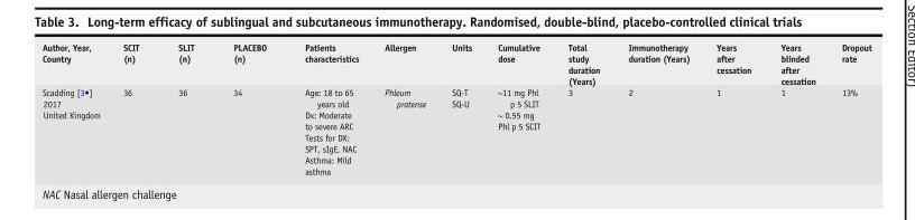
<table><thead><tr><td>Author, Year, Country</td><td>SCIT (n)</td><td>SLIT (n)</td><td>PLACEBO (n)</td><td>Patients characteristics</td><td>Allergen</td><td>Units</td><td>Cumulative dose</td><td>Total study duration (Years)</td><td>Immunotherapy duration (Years)</td><td>Years after cessation</td><td>Years blinded after cessation</td><td>Dropout rate</td></tr></thead><tbody><tr><td>Scadding [3•] 2017 United Kingdom</td><td>36</td><td>36</td><td>34</td><td>Age: 18 to 65 years old Dx: Moderate to severe ARC Tests for DX: SPT, sIgE, NAC Asthma: Mild asthma</td><td>Phleum pratense</td><td>SQ-T SQ-U</td><td>~11 mg Phl p 5 SLIT ~ 0.55 mg Phl p 5 SCIT</td><td>3</td><td>2</td><td>1</td><td>1</td><td>13%</td></tr></tbody></table>